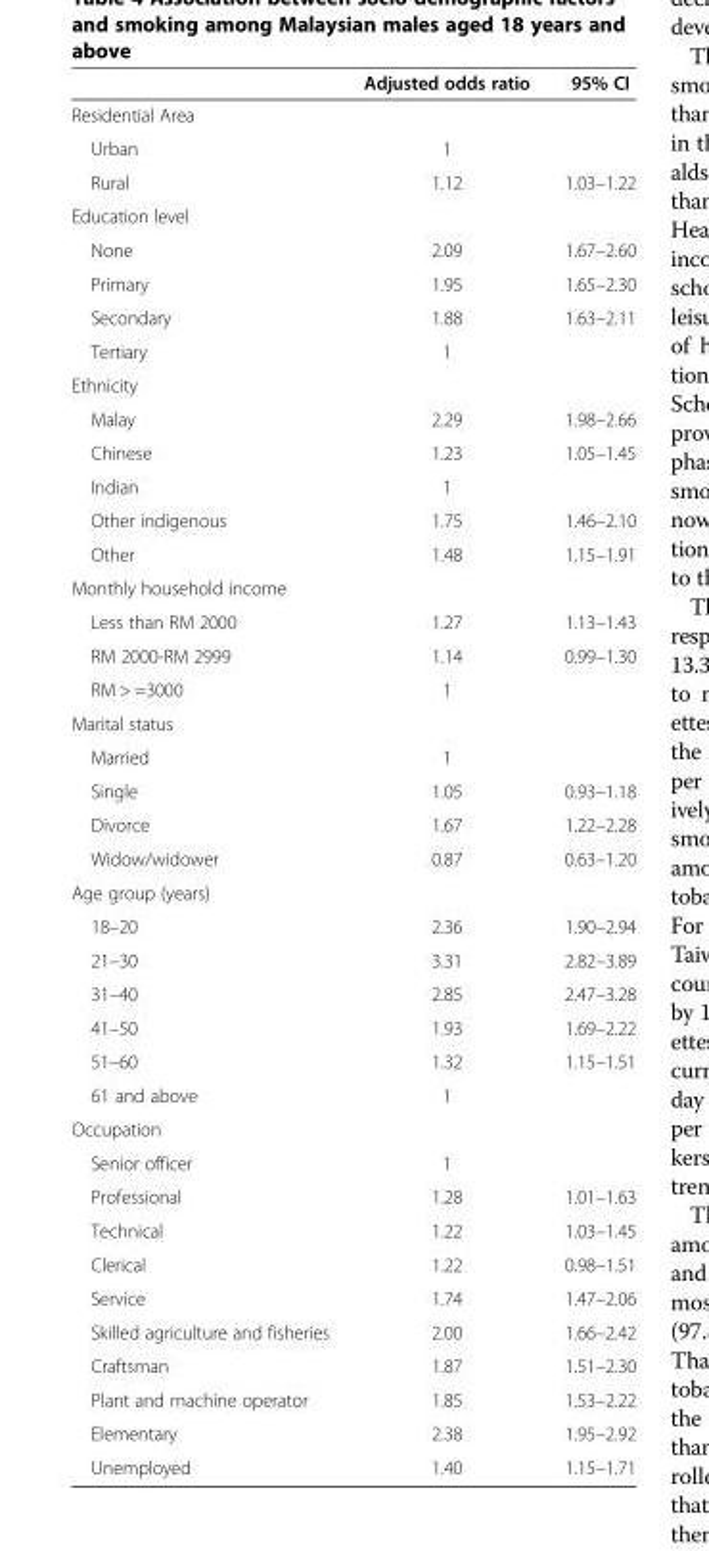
<table><thead><tr><td></td><td>Adjusted odds ratio</td><td>95% CI</td></tr></thead><tbody><tr><td colspan="3">Residential Area</td></tr><tr><td>Urban</td><td>1</td><td></td></tr><tr><td>Rural</td><td>1.12</td><td>1.03–1.22</td></tr><tr><td colspan="3">Education level</td></tr><tr><td>None</td><td>2.09</td><td>1.67–2.60</td></tr><tr><td>Primary</td><td>1.95</td><td>1.65–2.30</td></tr><tr><td>Secondary</td><td>1.88</td><td>1.63–2.11</td></tr><tr><td>Tertiary</td><td>1</td><td></td></tr><tr><td colspan="3">Ethnicity</td></tr><tr><td>Malay</td><td>2.29</td><td>1.98–2.66</td></tr><tr><td>Chinese</td><td>1.23</td><td>1.05–1.45</td></tr><tr><td>Indian</td><td>1</td><td></td></tr><tr><td>Other indigenous</td><td>1.75</td><td>1.46–2.10</td></tr><tr><td>Other</td><td>1.48</td><td>1.15–1.91</td></tr><tr><td colspan="3">Monthly household income</td></tr><tr><td>Less than RM 2000</td><td>1.27</td><td>1.13–1.43</td></tr><tr><td>RM 2000-RM 2999</td><td>1.14</td><td>0.99–1.30</td></tr><tr><td>RM &gt; =3000</td><td>1</td><td></td></tr><tr><td colspan="3">Marital status</td></tr><tr><td>Married</td><td>1</td><td></td></tr><tr><td>Single</td><td>1.05</td><td>0.93–1.18</td></tr><tr><td>Divorce</td><td>1.67</td><td>1.22–2.28</td></tr><tr><td>Widow/widower</td><td>0.87</td><td>0.63–1.20</td></tr><tr><td colspan="3">Age group (years)</td></tr><tr><td>18–20</td><td>2.36</td><td>1.90–2.94</td></tr><tr><td>21–30</td><td>3.31</td><td>2.82–3.89</td></tr><tr><td>31–40</td><td>2.85</td><td>2.47–3.28</td></tr><tr><td>41–50</td><td>1.93</td><td>1.69–2.22</td></tr><tr><td>51–60</td><td>1.32</td><td>1.15–1.51</td></tr><tr><td>61 and above</td><td>1</td><td></td></tr><tr><td colspan="3">Occupation</td></tr><tr><td>Senior officer</td><td>1</td><td></td></tr><tr><td>Professional</td><td>1.28</td><td>1.01–1.63</td></tr><tr><td>Technical</td><td>1.22</td><td>1.03–1.45</td></tr><tr><td>Clerical</td><td>1.22</td><td>0.98–1.51</td></tr><tr><td>Service</td><td>1.74</td><td>1.47–2.06</td></tr><tr><td>Skilled agriculture and fisheries</td><td>2.00</td><td>1.66–2.42</td></tr><tr><td>Craftsman</td><td>1.87</td><td>1.51–2.30</td></tr><tr><td>Plant and machine operator</td><td>1.85</td><td>1.53–2.22</td></tr><tr><td>Elementary</td><td>2.38</td><td>1.95–2.92</td></tr><tr><td>Unemployed</td><td>1.40</td><td>1.15–1.71</td></tr></tbody></table>